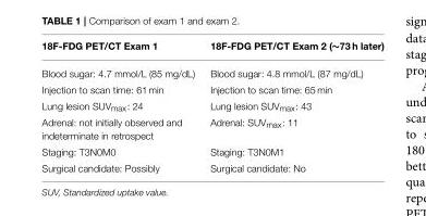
<table><thead><tr><td>18F-FDG PET/CT Exam 1</td><td>18F-FDG PET/CT Exam 2 (∼73 h later)</td></tr></thead><tbody><tr><td>Blood sugar: 4.7 mmol/L (85 mg/dL)</td><td>Blood sugar: 4.8 mmol/L (87 mg/dL)</td></tr><tr><td>Injection to scan time: 61 min</td><td>Injection to scan time: 65 min</td></tr><tr><td>Lung lesion SUV<sub>max</sub>: 24</td><td>Lung lesion SUV<sub>max</sub>: 43</td></tr><tr><td>Adrenal: not initially observed and indeterminate in retrospect</td><td>Adrenal: SUV<sub>max</sub>: 11</td></tr><tr><td>Staging: T3N0M0</td><td>Staging: T3N0M1</td></tr><tr><td>Surgical candidate: Possibly</td><td>Surgical candidate: No</td></tr></tbody></table>